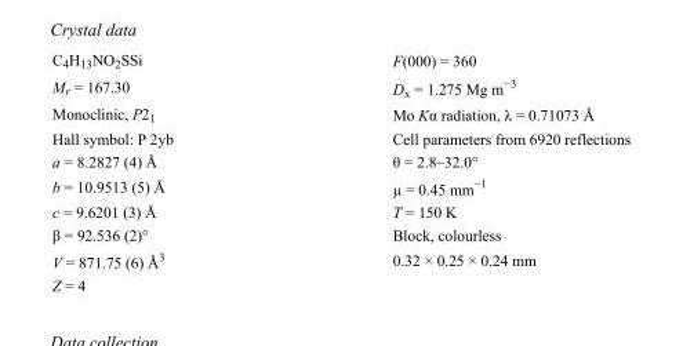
<table><tbody><tr><td>C<sub>4</sub>H<sub>13</sub>NO<sub>2</sub>SSi</td><td>F(000) = 360</td></tr><tr><td>M<sub>r</sub> = 167.30</td><td>D<sub>x</sub> = 1.275 Mg m<sup>−3</sup></td></tr><tr><td>Monoclinic, P2<sub>1</sub></td><td>Mo Kα radiation, λ = 0.71073 Å</td></tr><tr><td>Hall symbol: P 2yb</td><td>Cell parameters from 6920 reflections</td></tr><tr><td>a = 8.2827 (4) Å</td><td>θ = 2.8–32.0°</td></tr><tr><td>b = 10.9513 (5) Å</td><td>µ = 0.45 mm<sup>−1</sup></td></tr><tr><td>c = 9.6201 (3) Å</td><td>T = 150 K</td></tr><tr><td>β = 92.536 (2)°</td><td>Block, colourless</td></tr><tr><td>V = 871.75 (6) Å<sup>3</sup></td><td>0.32 × 0.25 × 0.24 mm</td></tr><tr><td>Z = 4</td><td></td></tr></tbody></table>